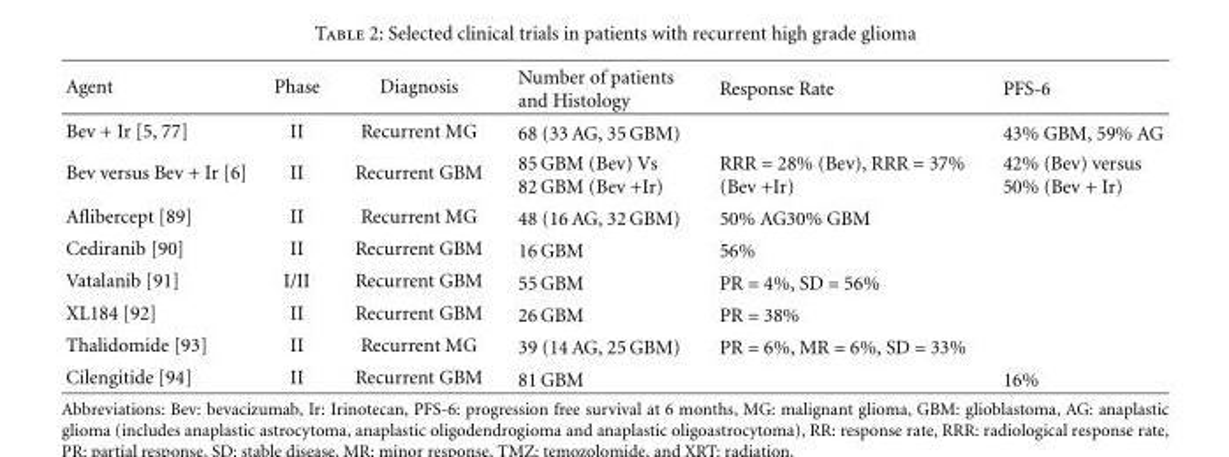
<table><thead><tr><td>Agent</td><td>Phase</td><td>Diagnosis</td><td>Number of patients and Histology</td><td>Response Rate</td><td>PFS-6</td></tr></thead><tbody><tr><td>Bev + Ir [5, 77]</td><td>II</td><td>Recurrent MG</td><td>68 (33 AG, 35 GBM)</td><td></td><td>43% GBM, 59% AG</td></tr><tr><td>Bev versus Bev + Ir [6]</td><td>II</td><td>Recurrent GBM</td><td>85 GBM (Bev) Vs 82 GBM (Bev +Ir)</td><td>RRR = 28% (Bev), RRR = 37% (Bev +Ir)</td><td>42% (Bev) versus 50% (Bev + Ir)</td></tr><tr><td>Aflibercept [89]</td><td>II</td><td>Recurrent MG</td><td>48 (16 AG, 32 GBM)</td><td>50% AG30% GBM</td><td></td></tr><tr><td>Cediranib [90]</td><td>II</td><td>Recurrent GBM</td><td>16 GBM</td><td>56%</td><td></td></tr><tr><td>Vatalanib [91]</td><td>I/II</td><td>Recurrent GBM</td><td>55 GBM</td><td>PR = 4%, SD = 56%</td><td></td></tr><tr><td>XL184 [92]</td><td>II</td><td>Recurrent GBM</td><td>26 GBM</td><td>PR = 38%</td><td></td></tr><tr><td>Thalidomide [93]</td><td>II</td><td>Recurrent MG</td><td>39 (14 AG, 25 GBM)</td><td>PR = 6%, MR = 6%, SD = 33%</td><td></td></tr><tr><td>Cilengitide [94]</td><td>II</td><td>Recurrent GBM</td><td>81 GBM</td><td></td><td>16%</td></tr></tbody></table>